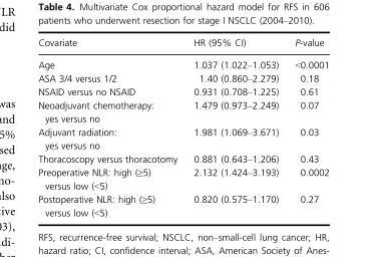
<table><thead><tr><td>Covariate</td><td>HR (95% CI)</td><td>P-value</td></tr></thead><tbody><tr><td>Age</td><td>1.037 (1.022–1.053)</td><td>&lt;0.0001</td></tr><tr><td>ASA 3/4 versus 1/2</td><td>1.40 (0.860–2.279)</td><td>0.18</td></tr><tr><td>NSAID versus no NSAID</td><td>0.931 (0.708–1.225)</td><td>0.61</td></tr><tr><td>Neoadjuvant chemotherapy: yes versus no</td><td>1.479 (0.973–2.249)</td><td>0.07</td></tr><tr><td>Adjuvant radiation: yes versus no</td><td>1.981 (1.069–3.671)</td><td>0.03</td></tr><tr><td>Thoracoscopy versus thoracotomy</td><td>0.881 (0.643–1.206)</td><td>0.43</td></tr><tr><td>Preoperative NLR: high (≥5) versus low (&lt;5)</td><td>2.132 (1.424–3.193)</td><td>0.0002</td></tr><tr><td>Postoperative NLR: high (≥5) versus low (&lt;5)</td><td>0.820 (0.575–1.170)</td><td>0.27</td></tr></tbody></table>